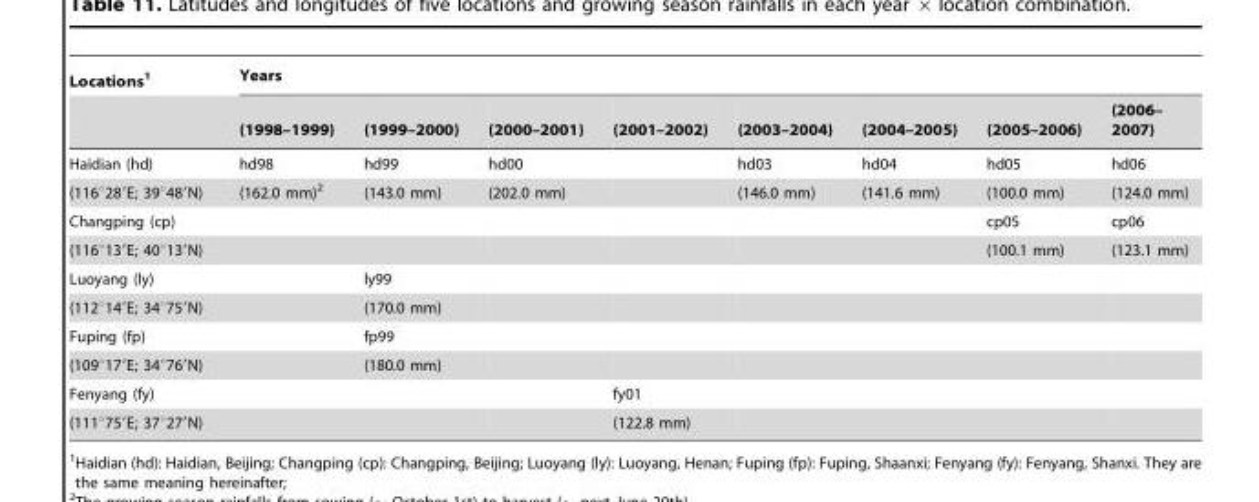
<table><thead><tr><td rowspan="2">Locations<sup>1</sup></td><td colspan="8">Years</td></tr><tr><td>(1998–1999)</td><td>(1999–2000)</td><td>(2000–2001)</td><td>(2001–2002)</td><td>(2003–2004)</td><td>(2004–2005)</td><td>(2005–2006)</td><td>(2006– 2007)</td></tr></thead><tbody><tr><td>Haidian (hd)</td><td>hd98</td><td>hd99</td><td>hd00</td><td></td><td>hd03</td><td>hd04</td><td>hd05</td><td>hd06</td></tr><tr><td>(116°28′E; 39°48′N)</td><td>(162.0 mm)<sup>2</sup></td><td>(143.0 mm)</td><td>(202.0 mm)</td><td></td><td>(146.0 mm)</td><td>(141.6 mm)</td><td>(100.0 mm)</td><td>(124.0 mm)</td></tr><tr><td>Changping (cp)</td><td></td><td></td><td></td><td></td><td></td><td></td><td>cp05</td><td>cp06</td></tr><tr><td>(116°13′E; 40°13′N)</td><td></td><td></td><td></td><td></td><td></td><td></td><td>(100.1 mm)</td><td>(123.1 mm)</td></tr><tr><td>Luoyang (ly)</td><td></td><td>ly99</td><td></td><td></td><td></td><td></td><td></td><td></td></tr><tr><td>(112°14′E; 34°75′N)</td><td></td><td>(170.0 mm)</td><td></td><td></td><td></td><td></td><td></td><td></td></tr><tr><td>Fuping (fp)</td><td></td><td>fp99</td><td></td><td></td><td></td><td></td><td></td><td></td></tr><tr><td>(109°17′E; 34°76′N)</td><td></td><td>(180.0 mm)</td><td></td><td></td><td></td><td></td><td></td><td></td></tr><tr><td>Fenyang (fy)</td><td></td><td></td><td></td><td>fy01</td><td></td><td></td><td></td><td></td></tr><tr><td>(111°75′E; 37°27′N)</td><td></td><td></td><td></td><td>(122.8 mm)</td><td></td><td></td><td></td><td></td></tr></tbody></table>